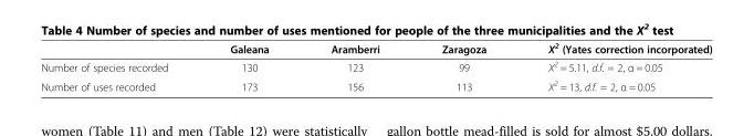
<table><thead><tr><td></td><td>Galeana</td><td>Aramberri</td><td>Zaragoza</td><td>X<sup>2</sup> (Yates correction incorporated)</td></tr></thead><tbody><tr><td>Number of species recorded</td><td>130</td><td>123</td><td>99</td><td>X<sup>2</sup> = 5.11, d.f. = 2, α = 0.05</td></tr><tr><td>Number of uses recorded</td><td>173</td><td>156</td><td>113</td><td>X<sup>2</sup> = 13, d.f. = 2, α = 0.05</td></tr></tbody></table>